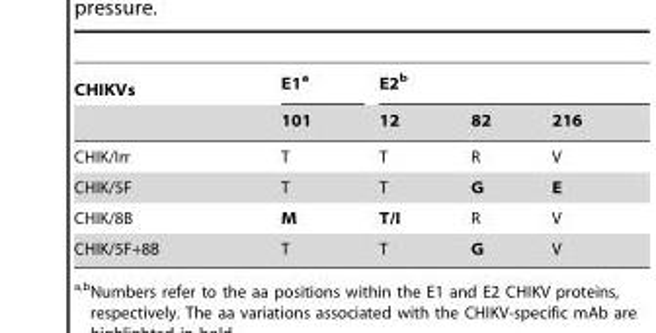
<table><thead><tr><td rowspan="2">CHIKVs</td><td rowspan="2">E1<sup>a</sup> 101</td><td colspan="3">E2<sup>b</sup></td></tr><tr><td>12</td><td>82</td><td>216</td></tr></thead><tbody><tr><td>CHIK/Irr</td><td>T</td><td>T</td><td>R</td><td>V</td></tr><tr><td>CHIK/5F</td><td>T</td><td>T</td><td>G</td><td>E</td></tr><tr><td>CHIK/8B</td><td>M</td><td>T/I</td><td>R</td><td>V</td></tr><tr><td>CHIK/5F+8B</td><td>T</td><td>T</td><td>G</td><td>V</td></tr></tbody></table>